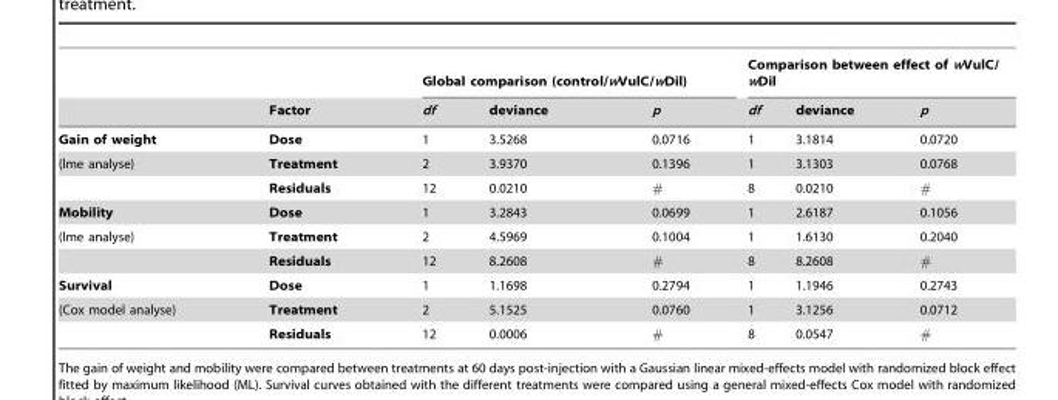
<table><thead><tr><td rowspan="2"></td><td rowspan="2">Factor</td><td colspan="3">Global comparison (control/wVulC/wDil)</td><td colspan="3">Comparison between effect of wVulC/ wDil</td></tr><tr><td>df</td><td>deviance</td><td>p</td><td>df</td><td>deviance</td><td>p</td></tr></thead><tbody><tr><td>Gain of weight</td><td>Dose</td><td>1</td><td>3.5268</td><td>0.0716</td><td>1</td><td>3.1814</td><td>0.0720</td></tr><tr><td rowspan="2">(lme analyse)</td><td>Treatment</td><td>2</td><td>3.9370</td><td>0.1396</td><td>1</td><td>3.1303</td><td>0.0768</td></tr><tr><td>Residuals</td><td>12</td><td>0.0210</td><td>#</td><td>8</td><td>0.0210</td><td>#</td></tr><tr><td>Mobility</td><td>Dose</td><td>1</td><td>3.2843</td><td>0.0699</td><td>1</td><td>2.6187</td><td>0.1056</td></tr><tr><td rowspan="2">(lme analyse)</td><td>Treatment</td><td>2</td><td>4.5969</td><td>0.1004</td><td>1</td><td>1.6130</td><td>0.2040</td></tr><tr><td>Residuals</td><td>12</td><td>8.2608</td><td>#</td><td>8</td><td>8.2608</td><td>#</td></tr><tr><td>Survival</td><td>Dose</td><td>1</td><td>1.1698</td><td>0.2794</td><td>1</td><td>1.1946</td><td>0.2743</td></tr><tr><td rowspan="2">(Cox model analyse)</td><td>Treatment</td><td>2</td><td>5.1525</td><td>0.0760</td><td>1</td><td>3.1256</td><td>0.0712</td></tr><tr><td>Residuals</td><td>12</td><td>0.0006</td><td>#</td><td>8</td><td>0.0547</td><td>#</td></tr></tbody></table>